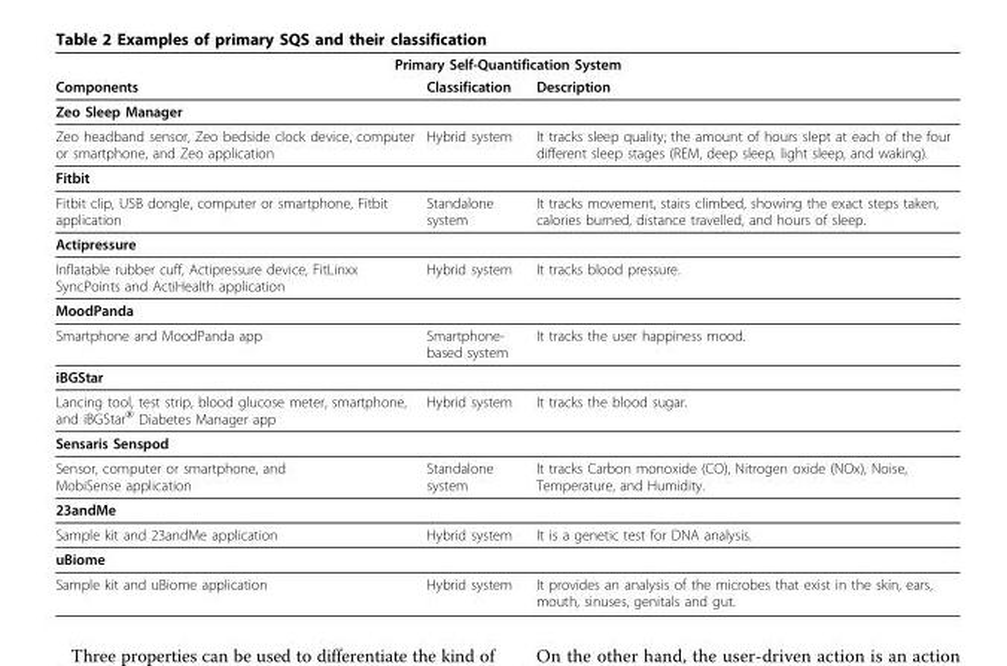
<table><thead><tr><td colspan="3">Primary Self-Quantification System</td></tr><tr><td>Components</td><td>Classification</td><td>Description</td></tr></thead><tbody><tr><td colspan="3">Zeo Sleep Manager</td></tr><tr><td>Zeo headband sensor, Zeo bedside clock device, computer or smartphone, and Zeo application</td><td>Hybrid system</td><td>It tracks sleep quality; the amount of hours slept at each of the four different sleep stages (REM, deep sleep, light sleep, and waking).</td></tr><tr><td colspan="3">Fitbit</td></tr><tr><td>Fitbit clip, USB dongle, computer or smartphone, Fitbit application</td><td>Standalone system</td><td>It tracks movement, stairs climbed, showing the exact steps taken, calories burned, distance travelled, and hours of sleep.</td></tr><tr><td colspan="3">Actipressure</td></tr><tr><td>Inflatable rubber cuff, Actipressure device, FitLinxx SyncPoints and ActiHealth application</td><td>Hybrid system</td><td>It tracks blood pressure.</td></tr><tr><td colspan="3">MoodPanda</td></tr><tr><td>Smartphone and MoodPanda app</td><td>Smartphone- based system</td><td>It tracks the user happiness mood.</td></tr><tr><td colspan="3">iBGStar</td></tr><tr><td>Lancing tool, test strip, blood glucose meter, smartphone, and iBGStar® Diabetes Manager app</td><td>Hybrid system</td><td>It tracks the blood sugar.</td></tr><tr><td colspan="3">Sensaris Senspod</td></tr><tr><td>Sensor, computer or smartphone, and MobiSense application</td><td>Standalone system</td><td>It tracks Carbon monoxide (CO), Nitrogen oxide (NOx), Noise, Temperature, and Humidity.</td></tr><tr><td colspan="3">23andMe</td></tr><tr><td>Sample kit and 23andMe application</td><td>Hybrid system</td><td>It is a genetic test for DNA analysis.</td></tr><tr><td colspan="3">uBiome</td></tr><tr><td>Sample kit and uBiome application</td><td>Hybrid system</td><td>It provides an analysis of the microbes that exist in the skin, ears, mouth, sinuses, genitals and gut.</td></tr></tbody></table>